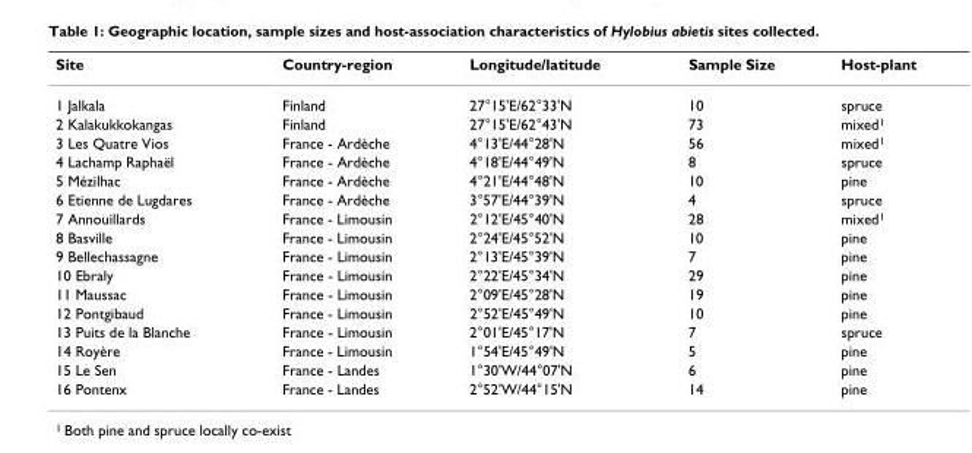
<table><thead><tr><td>Site</td><td>Country-region</td><td>Longitude/latitude</td><td>Sample Size</td><td>Host-plant</td></tr></thead><tbody><tr><td>1 Jalkala</td><td>Finland</td><td>27°15&#x27;E/62°33&#x27;N</td><td>10</td><td>spruce</td></tr><tr><td>2 Kalakukkokangas</td><td>Finland</td><td>27°15&#x27;E/62°43&#x27;N</td><td>73</td><td>mixed<sup>1</sup></td></tr><tr><td>3 Les Quatre Vios</td><td>France - Ardèche</td><td>4°13&#x27;E/44°28&#x27;N</td><td>56</td><td>mixed<sup>1</sup></td></tr><tr><td>4 Lachamp Raphaël</td><td>France - Ardèche</td><td>4°18&#x27;E/44°49&#x27;N</td><td>8</td><td>spruce</td></tr><tr><td>5 Mézilhac</td><td>France - Ardèche</td><td>4°21&#x27;E/44°48&#x27;N</td><td>10</td><td>pine</td></tr><tr><td>6 Etienne de Lugdares</td><td>France - Ardèche</td><td>3°57&#x27;E/44°39&#x27;N</td><td>4</td><td>spruce</td></tr><tr><td>7 Annouillards</td><td>France - Limousin</td><td>2°12&#x27;E/45°40&#x27;N</td><td>28</td><td>mixed<sup>1</sup></td></tr><tr><td>8 Basville</td><td>France - Limousin</td><td>2°24&#x27;E/45°52&#x27;N</td><td>10</td><td>pine</td></tr><tr><td>9 Bellechassagne</td><td>France - Limousin</td><td>2°13&#x27;E/45°39&#x27;N</td><td>7</td><td>pine</td></tr><tr><td>10 Ebraly</td><td>France - Limousin</td><td>2°22&#x27;E/45°34&#x27;N</td><td>29</td><td>pine</td></tr><tr><td>11 Maussac</td><td>France - Limousin</td><td>2°09&#x27;E/45°28&#x27;N</td><td>19</td><td>pine</td></tr><tr><td>12 Pontgibaud</td><td>France - Limousin</td><td>2°52&#x27;E/45°49&#x27;N</td><td>10</td><td>pine</td></tr><tr><td>13 Puits de la Blanche</td><td>France - Limousin</td><td>2°01&#x27;E/45°17&#x27;N</td><td>7</td><td>spruce</td></tr><tr><td>14 Royère</td><td>France - Limousin</td><td>1°54&#x27;E/45°49&#x27;N</td><td>5</td><td>pine</td></tr><tr><td>15 Le Sen</td><td>France - Landes</td><td>1°30&#x27;W/44°07&#x27;N</td><td>6</td><td>pine</td></tr><tr><td>16 Pontenx</td><td>France - Landes</td><td>2°52&#x27;W/44°15&#x27;N</td><td>14</td><td>pine</td></tr></tbody></table>